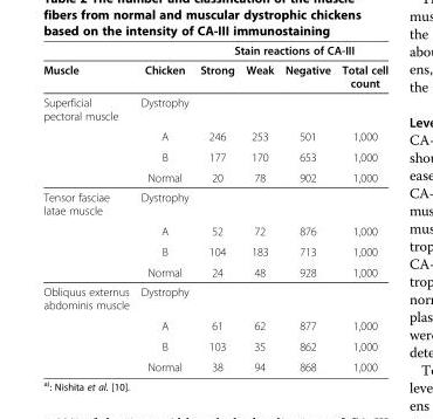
<table><thead><tr><td rowspan="2">Muscle</td><td rowspan="2">Chicken</td><td colspan="4">Stain reactions of CA-III</td></tr><tr><td>Strong</td><td>Weak</td><td>Negative</td><td>Total cell count</td></tr></thead><tbody><tr><td rowspan="4">Superficial pectoral muscle</td><td>Dystrophy</td><td></td><td></td><td></td><td></td></tr><tr><td>A</td><td>246</td><td>253</td><td>501</td><td>1,000</td></tr><tr><td>B</td><td>177</td><td>170</td><td>653</td><td>1,000</td></tr><tr><td>Normal</td><td>20</td><td>78</td><td>902</td><td>1,000</td></tr><tr><td rowspan="4">Tensor fasciae latae muscle</td><td>Dystrophy</td><td></td><td></td><td></td><td></td></tr><tr><td>A</td><td>52</td><td>72</td><td>876</td><td>1,000</td></tr><tr><td>B</td><td>104</td><td>183</td><td>713</td><td>1,000</td></tr><tr><td>Normal</td><td>24</td><td>48</td><td>928</td><td>1,000</td></tr><tr><td rowspan="4">Obliquus externus abdominis muscle</td><td>Dystrophy</td><td></td><td></td><td></td><td></td></tr><tr><td>A</td><td>61</td><td>62</td><td>877</td><td>1,000</td></tr><tr><td>B</td><td>103</td><td>35</td><td>862</td><td>1,000</td></tr><tr><td>Normal</td><td>38</td><td>94</td><td>868</td><td>1,000</td></tr></tbody></table>